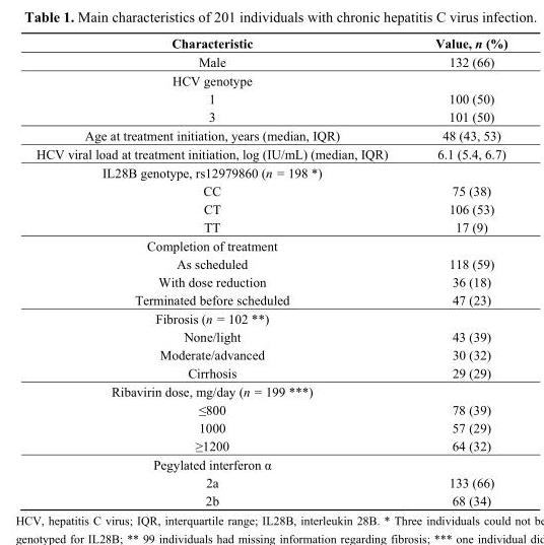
<table><thead><tr><td>Characteristic</td><td>Value, n (%)</td></tr></thead><tbody><tr><td>Male</td><td>132 (66)</td></tr><tr><td colspan="2">HCV genotype</td></tr><tr><td>1</td><td>100 (50)</td></tr><tr><td>3</td><td>101 (50)</td></tr><tr><td>Age at treatment initiation, years (median, IQR)</td><td>48 (43, 53)</td></tr><tr><td>HCV viral load at treatment initiation, log (IU/mL) (median, IQR)</td><td>6.1 (5.4, 6.7)</td></tr><tr><td colspan="2">IL28B genotype, rs12979860 (n = 198 *)</td></tr><tr><td>CC</td><td>75 (38)</td></tr><tr><td>CT</td><td>106 (53)</td></tr><tr><td>TT</td><td>17 (9)</td></tr><tr><td colspan="2">Completion of treatment</td></tr><tr><td>As scheduled</td><td>118 (59)</td></tr><tr><td>With dose reduction</td><td>36 (18)</td></tr><tr><td>Terminated before scheduled</td><td>47 (23)</td></tr><tr><td colspan="2">Fibrosis (n = 102 **)</td></tr><tr><td>None/light</td><td>43 (39)</td></tr><tr><td>Moderate/advanced</td><td>30 (32)</td></tr><tr><td>Cirrhosis</td><td>29 (29)</td></tr><tr><td colspan="2">Ribavirin dose, mg/day (n = 199 ***)</td></tr><tr><td>≤800</td><td>78 (39)</td></tr><tr><td>1000</td><td>57 (29)</td></tr><tr><td>≥1200</td><td>64 (32)</td></tr><tr><td colspan="2">Pegylated interferon α</td></tr><tr><td>2a</td><td>133 (66)</td></tr><tr><td>2b</td><td>68 (34)</td></tr></tbody></table>